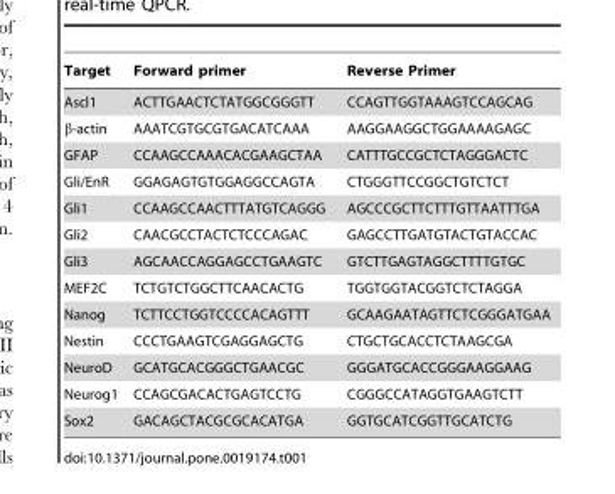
<table><thead><tr><td>Target</td><td>Forward primer</td><td>Reverse Primer</td></tr></thead><tbody><tr><td>Ascl1</td><td>ACTTGAACTCTATGGCGGGTT</td><td>CCAGTTGGTAAAGTCCAGCAG</td></tr><tr><td>β-actin</td><td>AAATCGTGCGTGACATCAAA</td><td>AAGGAAGGCTGGAAAAGAGC</td></tr><tr><td>GFAP</td><td>CCAAGCCAAACACGAAGCTAA</td><td>CATTTGCCGCTCTAGGGACTC</td></tr><tr><td>Gli/EnR</td><td>GGAGAGTGTGGAGGCCAGTA</td><td>CTGGGTTCCGGCTGTCTCT</td></tr><tr><td>Gli1</td><td>CCAAGCCAACTTTATGTCAGGG</td><td>AGCCCGCTTCTTTGTTAATTTGA</td></tr><tr><td>Gli2</td><td>CAACGCCTACTCTCCCAGAC</td><td>GAGCCTTGATGTACTGTACCAC</td></tr><tr><td>Gli3</td><td>AGCAACCAGGAGCCTGAAGTC</td><td>GTCTTGAGTAGGCTTTTGTGC</td></tr><tr><td>MEF2C</td><td>TCTGTCTGGCTTCAACACTG</td><td>TGGTGGTACGGTCTCTAGGA</td></tr><tr><td>Nanog</td><td>TCTTCCTGGTCCCCACAGTTT</td><td>GCAAGAATAGTTCTCGGGATGAA</td></tr><tr><td>Nestin</td><td>CCCTGAAGTCGAGGAGCTG</td><td>CTGCTGCACCTCTAAGCGA</td></tr><tr><td>NeuroD</td><td>GCATGCACGGGCTGAACGC</td><td>GGGATGCACCGGGAAGGAAG</td></tr><tr><td>Neurog1</td><td>CCAGCGACACTGAGTCCTG</td><td>CGGGCCATAGGTGAAGTCTT</td></tr><tr><td>Sox2</td><td>GACAGCTACGCGCACATGA</td><td>GGTGCATCGGTTGCATCTG</td></tr></tbody></table>